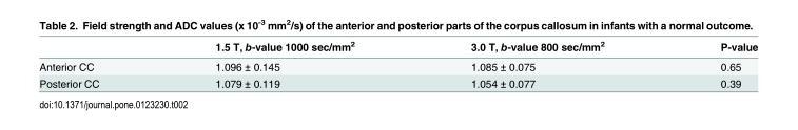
<table><thead><tr><td></td><td>1.5 T, b-value 1000 sec/mm<sup>2</sup></td><td>3.0 T, b-value 800 sec/mm<sup>2</sup></td><td>P-value</td></tr></thead><tbody><tr><td>Anterior CC</td><td>1.096 ± 0.145</td><td>1.085 ± 0.075</td><td>0.65</td></tr><tr><td>Posterior CC</td><td>1.079 ± 0.119</td><td>1.054 ± 0.077</td><td>0.39</td></tr></tbody></table>